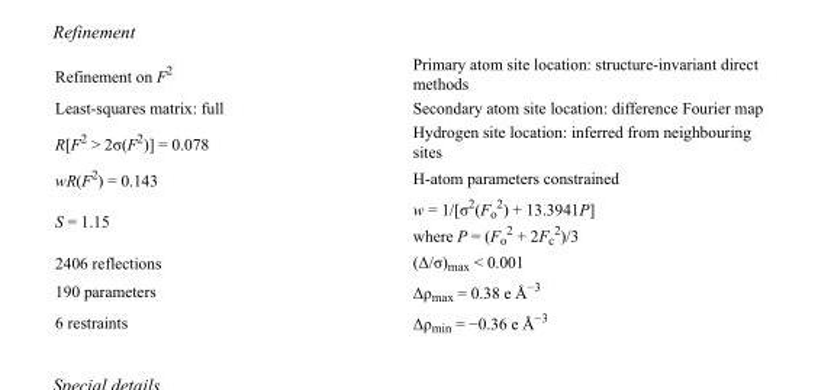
<table><tbody><tr><td>Refinement on F<sup>2</sup></td><td>Primary atom site location: structure-invariant direct methods</td></tr><tr><td>Least-squares matrix: full</td><td>Secondary atom site location: difference Fourier map</td></tr><tr><td>R[F<sup>2</sup> &gt; 2σ(F<sup>2</sup>)] = 0.078</td><td>Hydrogen site location: inferred from neighbouring sites</td></tr><tr><td>wR(F<sup>2</sup>) = 0.143</td><td>H-atom parameters constrained</td></tr><tr><td>S = 1.15</td><td>w = 1/[σ<sup>2</sup>(F<sub>o</sub> <sup>2</sup>) + 13.3941P] where P = (F<sub>o</sub> <sup>2</sup> + 2F<sub>c</sub> <sup>2</sup>)/3</td></tr><tr><td>2406 reflections</td><td>(Δ/σ)<sub>max</sub> &lt; 0.001</td></tr><tr><td>190 parameters</td><td>Δρ<sub>max</sub> = 0.38 e Å<sup>−3</sup></td></tr><tr><td>6 restraints</td><td>Δρ<sub>min</sub> = −0.36 e Å<sup>−3</sup></td></tr></tbody></table>